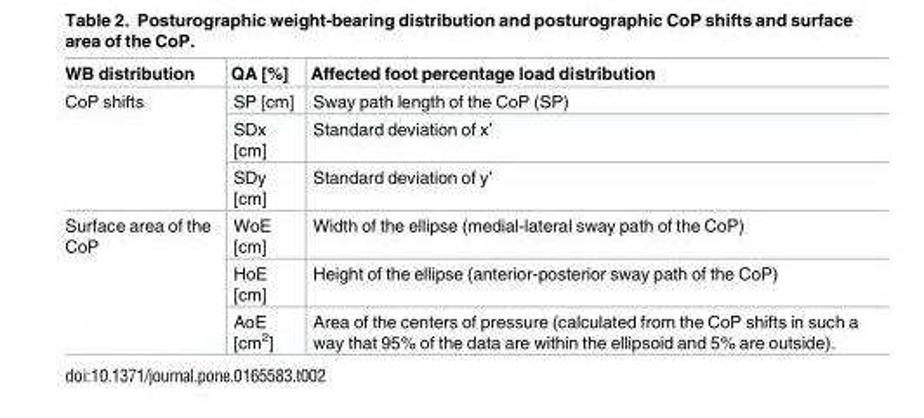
<table><thead><tr><td>WB distribution</td><td>QA [%]</td><td>Affected foot percentage load distribution</td></tr></thead><tbody><tr><td rowspan="3">CoP shifts</td><td>SP [cm]</td><td>Sway path length of the CoP (SP)</td></tr><tr><td>SDx [cm]</td><td>Standard deviation of x’</td></tr><tr><td>SDy [cm]</td><td>Standard deviation of y’</td></tr><tr><td rowspan="3">Surface area of the CoP</td><td>WoE [cm]</td><td>Width of the ellipse (medial-lateral sway path of the CoP)</td></tr><tr><td>HoE [cm]</td><td>Height of the ellipse (anterior-posterior sway path of the CoP)</td></tr><tr><td>AoE [cm<sup>2</sup>]</td><td>Area of the centers of pressure (calculated from the CoP shifts in such a way that 95% of the data are within the ellipsoid and 5% are outside).</td></tr></tbody></table>